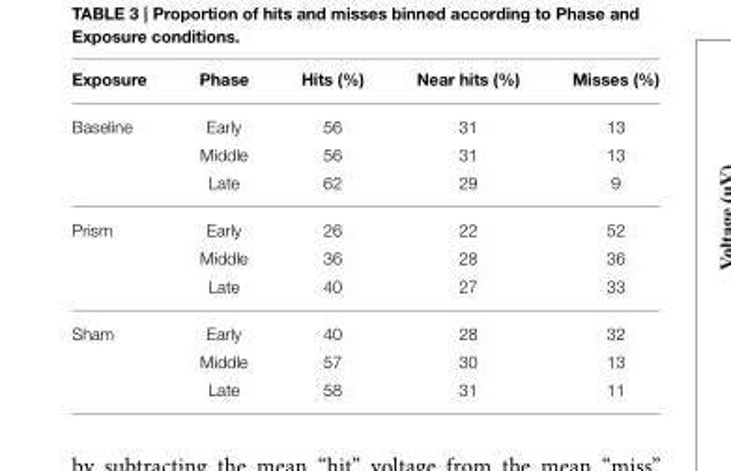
<table><thead><tr><td>Exposure</td><td>Phase</td><td>Hits (%)</td><td>Near hits (%)</td><td>Misses (%)</td></tr></thead><tbody><tr><td rowspan="3">Baseline</td><td>Early</td><td>56</td><td>31</td><td>13</td></tr><tr><td>Middle</td><td>56</td><td>31</td><td>13</td></tr><tr><td>Late</td><td>62</td><td>29</td><td>9</td></tr><tr><td rowspan="3">Prism</td><td>Early</td><td>26</td><td>22</td><td>52</td></tr><tr><td>Middle</td><td>36</td><td>28</td><td>36</td></tr><tr><td>Late</td><td>40</td><td>27</td><td>33</td></tr><tr><td rowspan="3">Sham</td><td>Early</td><td>40</td><td>28</td><td>32</td></tr><tr><td>Middle</td><td>57</td><td>30</td><td>13</td></tr><tr><td>Late</td><td>58</td><td>31</td><td>11</td></tr></tbody></table>